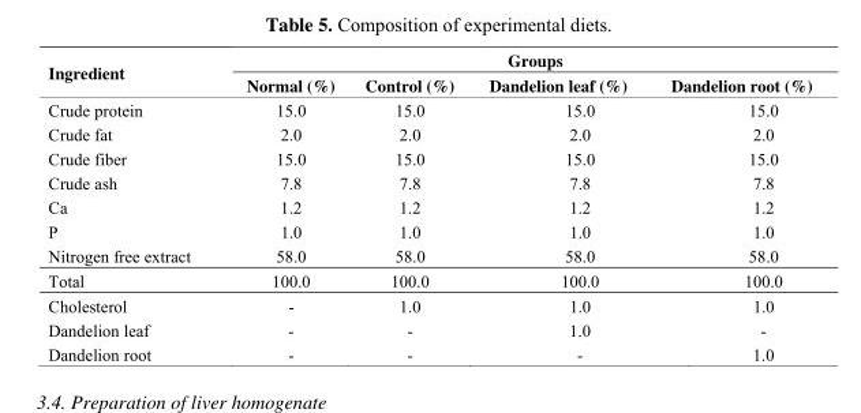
<table><thead><tr><td rowspan="2">Ingredient</td><td colspan="4">Groups</td></tr><tr><td>Normal (%)</td><td>Control (%)</td><td>Dandelion leaf (%)</td><td>Dandelion root (%)</td></tr></thead><tbody><tr><td>Crude protein</td><td>15.0</td><td>15.0</td><td>15.0</td><td>15.0</td></tr><tr><td>Crude fat</td><td>2.0</td><td>2.0</td><td>2.0</td><td>2.0</td></tr><tr><td>Crude fiber</td><td>15.0</td><td>15.0</td><td>15.0</td><td>15.0</td></tr><tr><td>Crude ash</td><td>7.8</td><td>7.8</td><td>7.8</td><td>7.8</td></tr><tr><td>Ca</td><td>1.2</td><td>1.2</td><td>1.2</td><td>1.2</td></tr><tr><td>P</td><td>1.0</td><td>1.0</td><td>1.0</td><td>1.0</td></tr><tr><td>Nitrogen free extract</td><td>58.0</td><td>58.0</td><td>58.0</td><td>58.0</td></tr><tr><td>Total</td><td>100.0</td><td>100.0</td><td>100.0</td><td>100.0</td></tr><tr><td>Cholesterol</td><td>-</td><td>1.0</td><td>1.0</td><td>1.0</td></tr><tr><td>Dandelion leaf</td><td>-</td><td>-</td><td>1.0</td><td>-</td></tr><tr><td>Dandelion root</td><td>-</td><td>-</td><td>-</td><td>1.0</td></tr></tbody></table>